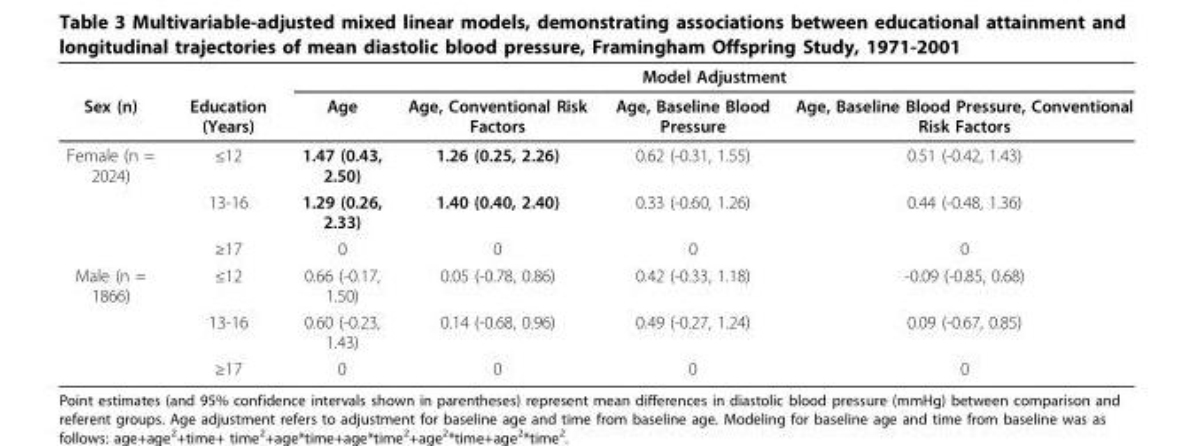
<table><thead><tr><td rowspan="2">Sex (n)</td><td rowspan="2">Education (Years)</td><td colspan="4">Model Adjustment</td></tr><tr><td>Age</td><td>Age, Conventional Risk Factors</td><td>Age, Baseline Blood Pressure</td><td>Age, Baseline Blood Pressure, Conventional Risk Factors</td></tr></thead><tbody><tr><td rowspan="3">Female (n = 2024)</td><td>≤12</td><td>1.47 (0.43, 2.50)</td><td>1.26 (0.25, 2.26)</td><td>0.62 (-0.31, 1.55)</td><td>0.51 (-0.42, 1.43)</td></tr><tr><td>13-16</td><td>1.29 (0.26, 2.33)</td><td>1.40 (0.40, 2.40)</td><td>0.33 (-0.60, 1.26)</td><td>0.44 (-0.48, 1.36)</td></tr><tr><td>≥17</td><td>0</td><td>0</td><td>0</td><td>0</td></tr><tr><td rowspan="3">Male (n = 1866)</td><td>≤12</td><td>0.66 (-0.17, 1.50)</td><td>0.05 (-0.78, 0.86)</td><td>0.42 (-0.33, 1.18)</td><td>-0.09 (-0.85, 0.68)</td></tr><tr><td>13-16</td><td>0.60 (-0.23, 1.43)</td><td>0.14 (-0.68, 0.96)</td><td>0.49 (-0.27, 1.24)</td><td>0.09 (-0.67, 0.85)</td></tr><tr><td>≥17</td><td>0</td><td>0</td><td>0</td><td>0</td></tr></tbody></table>